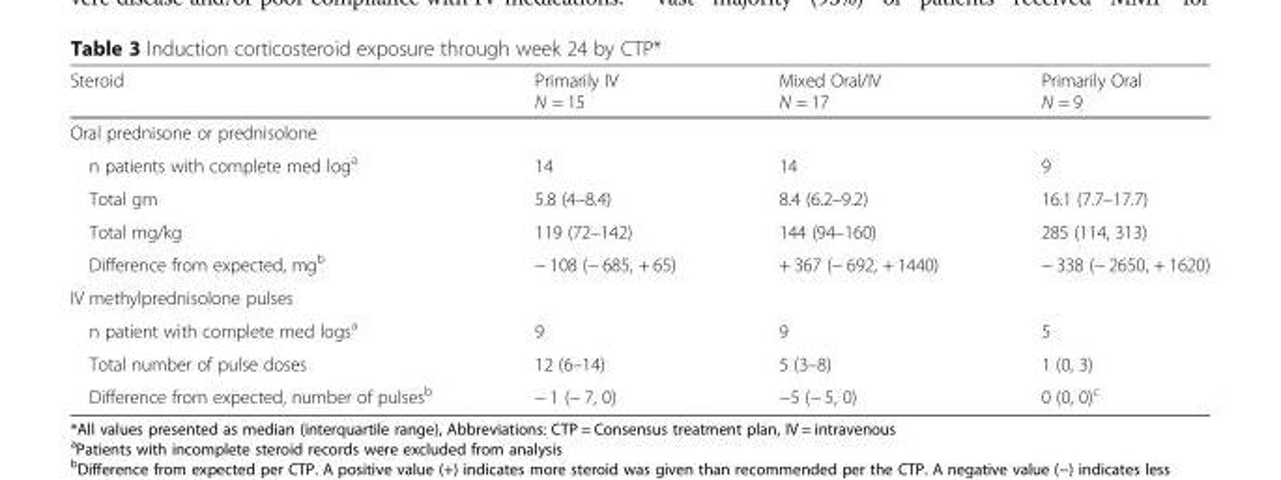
<table><thead><tr><td>Steroid</td><td>Primarily IV N = 15</td><td>Mixed Oral/IV N = 17</td><td>Primarily Oral N = 9</td></tr></thead><tbody><tr><td colspan="4">Oral prednisone or prednisolone</td></tr><tr><td>n patients with complete med log<sup>a</sup></td><td>14</td><td>14</td><td>9</td></tr><tr><td>Total gm</td><td>5.8 (4–8.4)</td><td>8.4 (6.2–9.2)</td><td>16.1 (7.7–17.7)</td></tr><tr><td>Total mg/kg</td><td>119 (72–142)</td><td>144 (94–160)</td><td>285 (114, 313)</td></tr><tr><td>Difference from expected, mg<sup>b</sup></td><td>− 108 (− 685, + 65)</td><td>+ 367 (− 692, + 1440)</td><td>− 338 (− 2650, + 1620)</td></tr><tr><td colspan="4">IV methylprednisolone pulses</td></tr><tr><td>n patient with complete med logs<sup>a</sup></td><td>9</td><td>9</td><td>5</td></tr><tr><td>Total number of pulse doses</td><td>12 (6–14)</td><td>5 (3–8)</td><td>1 (0, 3)</td></tr><tr><td>Difference from expected, number of pulses<sup>b</sup></td><td>− 1 (− 7, 0)</td><td>−5 (− 5, 0)</td><td>0 (0, 0)<sup>c</sup></td></tr></tbody></table>